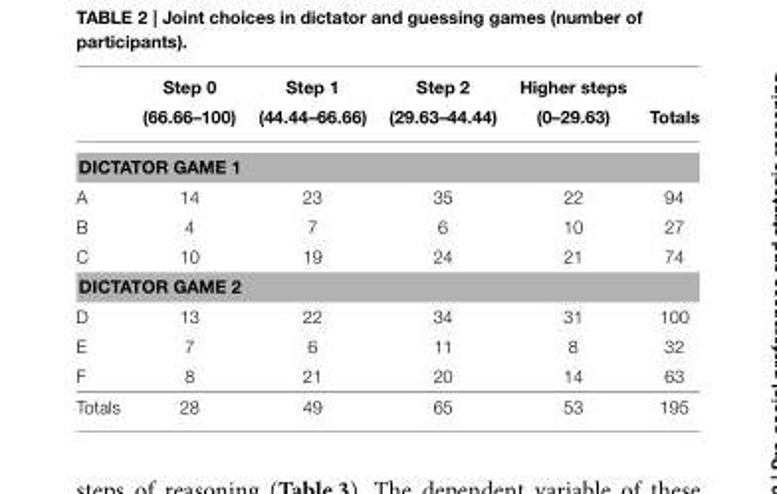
<table><thead><tr><td rowspan="2"></td><td rowspan="2">Step 0 (66.66–100)</td><td rowspan="2">Step 1 (44.44–66.66)</td><td rowspan="2">Step 2 (29.63–44.44)</td><td rowspan="2">Higher steps (0–29.63)</td><td rowspan="2">Totals</td></tr><tr></tr></thead><tbody><tr><td colspan="6">DICTATOR GAME 1</td></tr><tr><td>A</td><td>14</td><td>23</td><td>35</td><td>22</td><td>94</td></tr><tr><td>B</td><td>4</td><td>7</td><td>6</td><td>10</td><td>27</td></tr><tr><td>C</td><td>10</td><td>19</td><td>24</td><td>21</td><td>74</td></tr><tr><td colspan="6">DICTATOR GAME 2</td></tr><tr><td>D</td><td>13</td><td>22</td><td>34</td><td>31</td><td>100</td></tr><tr><td>E</td><td>7</td><td>6</td><td>11</td><td>8</td><td>32</td></tr><tr><td>F</td><td>8</td><td>21</td><td>20</td><td>14</td><td>63</td></tr><tr><td>Totals</td><td>28</td><td>49</td><td>65</td><td>53</td><td>195</td></tr></tbody></table>